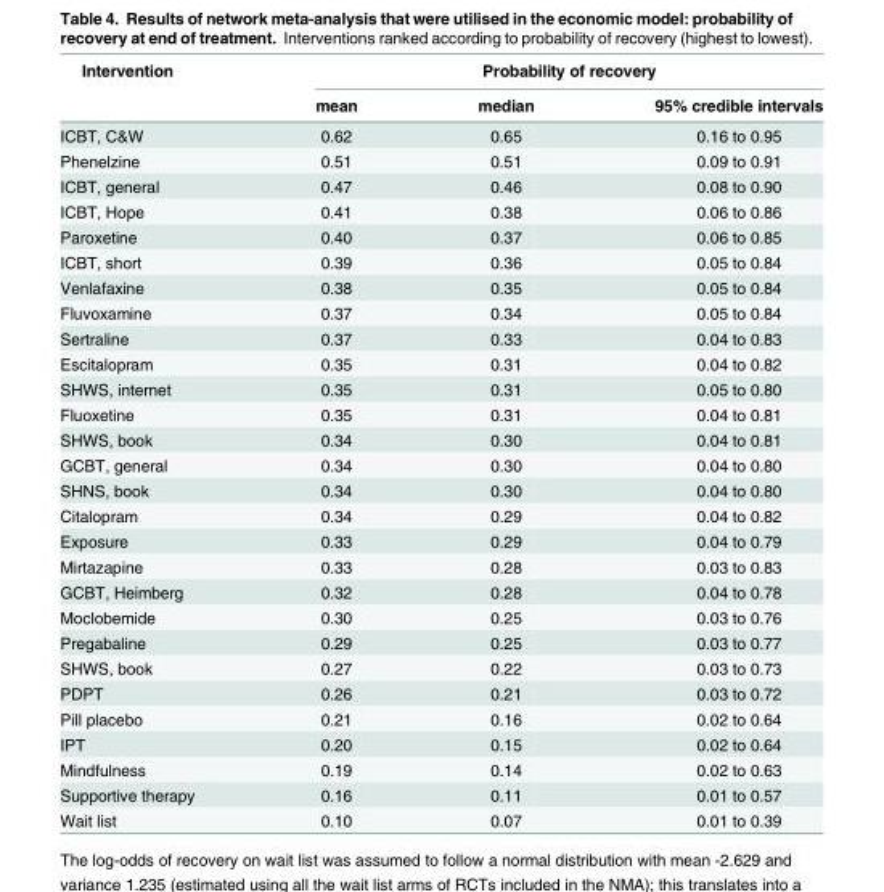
<table><thead><tr><td rowspan="2">Intervention</td><td colspan="3">Probability of recovery</td></tr><tr><td>mean</td><td>median</td><td>95% credible intervals</td></tr></thead><tbody><tr><td>ICBT, C&amp;W</td><td>0.62</td><td>0.65</td><td>0.16 to 0.95</td></tr><tr><td>Phenelzine</td><td>0.51</td><td>0.51</td><td>0.09 to 0.91</td></tr><tr><td>ICBT, general</td><td>0.47</td><td>0.46</td><td>0.08 to 0.90</td></tr><tr><td>ICBT, Hope</td><td>0.41</td><td>0.38</td><td>0.06 to 0.86</td></tr><tr><td>Paroxetine</td><td>0.40</td><td>0.37</td><td>0.06 to 0.85</td></tr><tr><td>ICBT, short</td><td>0.39</td><td>0.36</td><td>0.05 to 0.84</td></tr><tr><td>Venlafaxine</td><td>0.38</td><td>0.35</td><td>0.05 to 0.84</td></tr><tr><td>Fluvoxamine</td><td>0.37</td><td>0.34</td><td>0.05 to 0.84</td></tr><tr><td>Sertraline</td><td>0.37</td><td>0.33</td><td>0.04 to 0.83</td></tr><tr><td>Escitalopram</td><td>0.35</td><td>0.31</td><td>0.04 to 0.82</td></tr><tr><td>SHWS, internet</td><td>0.35</td><td>0.31</td><td>0.05 to 0.80</td></tr><tr><td>Fluoxetine</td><td>0.35</td><td>0.31</td><td>0.04 to 0.81</td></tr><tr><td>SHWS, book</td><td>0.34</td><td>0.30</td><td>0.04 to 0.81</td></tr><tr><td>GCBT, general</td><td>0.34</td><td>0.30</td><td>0.04 to 0.80</td></tr><tr><td>SHNS, book</td><td>0.34</td><td>0.30</td><td>0.04 to 0.80</td></tr><tr><td>Citalopram</td><td>0.34</td><td>0.29</td><td>0.04 to 0.82</td></tr><tr><td>Exposure</td><td>0.33</td><td>0.29</td><td>0.04 to 0.79</td></tr><tr><td>Mirtazapine</td><td>0.33</td><td>0.28</td><td>0.03 to 0.83</td></tr><tr><td>GCBT, Heimberg</td><td>0.32</td><td>0.28</td><td>0.04 to 0.78</td></tr><tr><td>Moclobemide</td><td>0.30</td><td>0.25</td><td>0.03 to 0.76</td></tr><tr><td>Pregabaline</td><td>0.29</td><td>0.25</td><td>0.03 to 0.77</td></tr><tr><td>SHWS, book</td><td>0.27</td><td>0.22</td><td>0.03 to 0.73</td></tr><tr><td>PDPT</td><td>0.26</td><td>0.21</td><td>0.03 to 0.72</td></tr><tr><td>Pill placebo</td><td>0.21</td><td>0.16</td><td>0.02 to 0.64</td></tr><tr><td>IPT</td><td>0.20</td><td>0.15</td><td>0.02 to 0.64</td></tr><tr><td>Mindfulness</td><td>0.19</td><td>0.14</td><td>0.02 to 0.63</td></tr><tr><td>Supportive therapy</td><td>0.16</td><td>0.11</td><td>0.01 to 0.57</td></tr><tr><td>Wait list</td><td>0.10</td><td>0.07</td><td>0.01 to 0.39</td></tr></tbody></table>